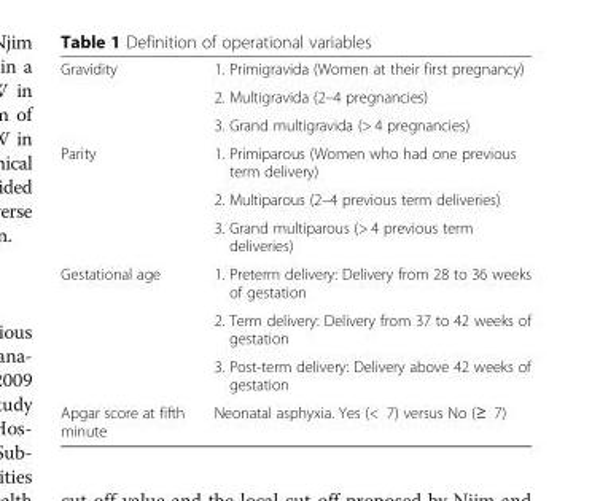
<table><tbody><tr><td rowspan="3">Gravidity</td><td>1. Primigravida (Women at their first pregnancy)</td></tr><tr><td>2. Multigravida (2–4 pregnancies)</td></tr><tr><td>3. Grand multigravida (&gt; 4 pregnancies)</td></tr><tr><td rowspan="3">Parity</td><td>1. Primiparous (Women who had one previous term delivery)</td></tr><tr><td>2. Multiparous (2–4 previous term deliveries)</td></tr><tr><td>3. Grand multiparous (&gt; 4 previous term deliveries)</td></tr><tr><td rowspan="3">Gestational age</td><td>1. Preterm delivery: Delivery from 28 to 36 weeks of gestation</td></tr><tr><td>2. Term delivery: Delivery from 37 to 42 weeks of gestation</td></tr><tr><td>3. Post-term delivery: Delivery above 42 weeks of gestation</td></tr><tr><td>Apgar score at fifth minute</td><td>Neonatal asphyxia. Yes (&lt; 7) versus No (≥ 7)</td></tr></tbody></table>